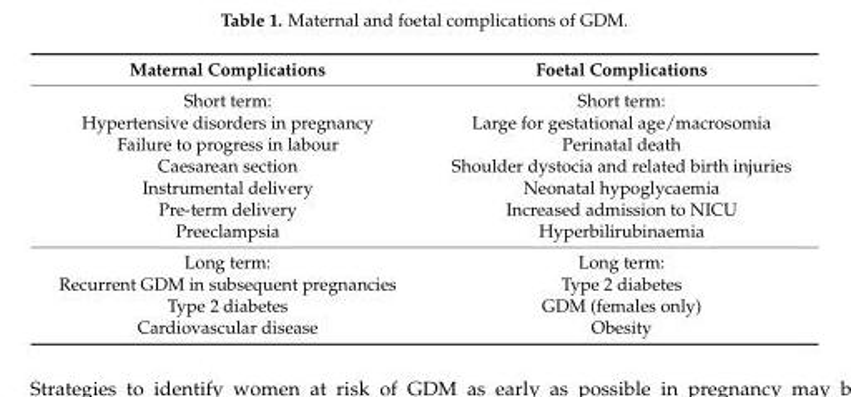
<table><thead><tr><td>Maternal Complications</td><td>Foetal Complications</td></tr></thead><tbody><tr><td>Short term:</td><td>Short term:</td></tr><tr><td>Hypertensive disorders in pregnancy</td><td>Large for gestational age/macrosomia</td></tr><tr><td>Failure to progress in labour</td><td>Perinatal death</td></tr><tr><td>Caesarean section</td><td>Shoulder dystocia and related birth injuries</td></tr><tr><td>Instrumental delivery</td><td>Neonatal hypoglycaemia</td></tr><tr><td>Pre-term delivery</td><td>Increased admission to NICU</td></tr><tr><td>Preeclampsia</td><td>Hyperbilirubinaemia</td></tr><tr><td>Long term:</td><td>Long term:</td></tr><tr><td>Recurrent GDM in subsequent pregnancies</td><td>Type 2 diabetes</td></tr><tr><td>Type 2 diabetes</td><td>GDM (females only)</td></tr><tr><td>Cardiovascular disease</td><td>Obesity</td></tr></tbody></table>